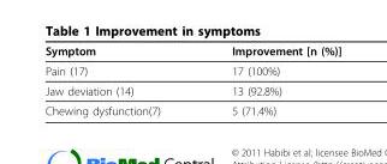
<table><thead><tr><td>Symptom</td><td>Improvement [n (%)]</td></tr></thead><tbody><tr><td>Pain (17)</td><td>17 (100%)</td></tr><tr><td>Jaw deviation (14)</td><td>13 (92.8%)</td></tr><tr><td>Chewing dysfunction(7)</td><td>5 (71.4%)</td></tr></tbody></table>